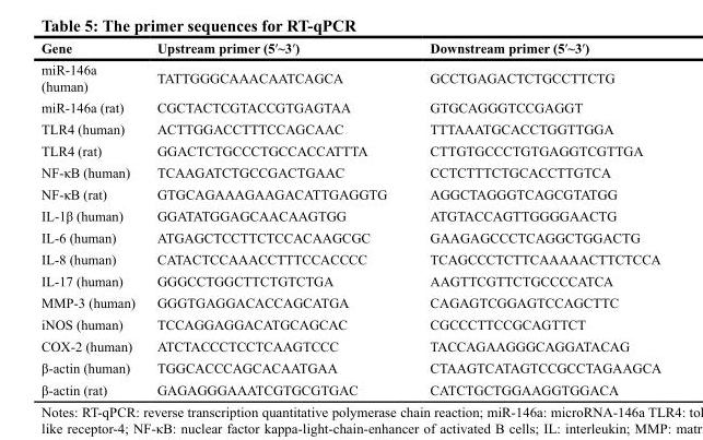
<table><thead><tr><td>Gene</td><td>Upstream primer (5ʹ~3ʹ)</td><td>Downstream primer (5ʹ~3ʹ)</td></tr></thead><tbody><tr><td>miR-146a (human)</td><td>TATTGGGCAAACAATCAGCA</td><td>GCCTGAGACTCTGCCTTCTG</td></tr><tr><td>miR-146a (rat)</td><td>CGCTACTCGTACCGTGAGTAA</td><td>GTGCAGGGTCCGAGGT</td></tr><tr><td>TLR4 (human)</td><td>ACTTGGACCTTTCCAGCAAC</td><td>TTTAAATGCACCTGGTTGGA</td></tr><tr><td>TLR4 (rat)</td><td>GGACTCTGCCCTGCCACCATTTA</td><td>CTTGTGCCCTGTGAGGTCGTTGA</td></tr><tr><td>NF-κB (human)</td><td>TCAAGATCTGCCGACTGAAC</td><td>CCTCTTTCTGCACCTTGTCA</td></tr><tr><td>NF-κB (rat)</td><td>GTGCAGAAAGAAGACATTGAGGTG</td><td>AGGCTAGGGTCAGCGTATGG</td></tr><tr><td>IL-1β (human)</td><td>GGATATGGAGCAACAAGTGG</td><td>ATGTACCAGTTGGGGAACTG</td></tr><tr><td>IL-6 (human)</td><td>ATGAGCTCCTTCTCCACAAGCGC</td><td>GAAGAGCCCTCAGGCTGGACTG</td></tr><tr><td>IL-8 (human)</td><td>CATACTCCAAACCTTTCCACCCC</td><td>TCAGCCCTCTTCAAAAACTTCTCCA</td></tr><tr><td>IL-17 (human)</td><td>GGGCCTGGCTTCTGTCTGA</td><td>AAGTTCGTTCTGCCCCATCA</td></tr><tr><td>MMP-3 (human)</td><td>GGGTGAGGACACCAGCATGA</td><td>CAGAGTCGGAGTCCAGCTTC</td></tr><tr><td>iNOS (human)</td><td>TCCAGGAGGACATGCAGCAC</td><td>CGCCCTTCCGCAGTTCT</td></tr><tr><td>COX-2 (human)</td><td>ATCTACCCTCCTCAAGTCCC</td><td>TACCAGAAGGGCAGGATACAG</td></tr><tr><td>β-actin (human)</td><td>TGGCACCCAGCACAATGAA</td><td>CTAAGTCATAGTCCGCCTAGAAGCA</td></tr><tr><td>β-actin (rat)</td><td>GAGAGGGAAATCGTGCGTGAC</td><td>CATCTGCTGGAAGGTGGACA</td></tr></tbody></table>